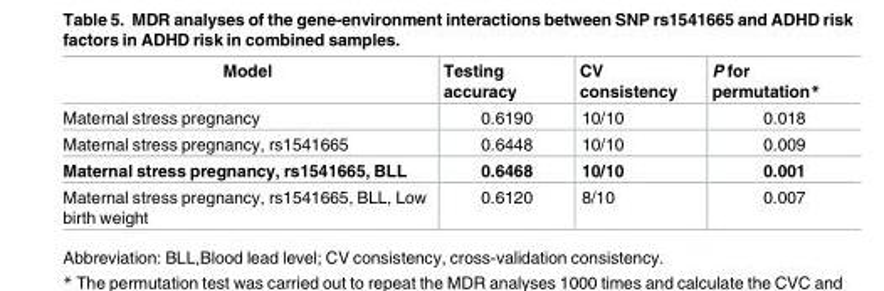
<table><thead><tr><td>Model</td><td>Testing accuracy</td><td>CV consistency</td><td>P for permutation*</td></tr></thead><tbody><tr><td>Maternal stress pregnancy</td><td>0.6190</td><td>10/10</td><td>0.018</td></tr><tr><td>Maternal stress pregnancy, rs1541665</td><td>0.6448</td><td>10/10</td><td>0.009</td></tr><tr><td>Maternal stress pregnancy, rs1541665, BLL</td><td>0.6468</td><td>10/10</td><td>0.001</td></tr><tr><td>Maternal stress pregnancy, rs1541665, BLL, Low birth weight</td><td>0.6120</td><td>8/10</td><td>0.007</td></tr></tbody></table>